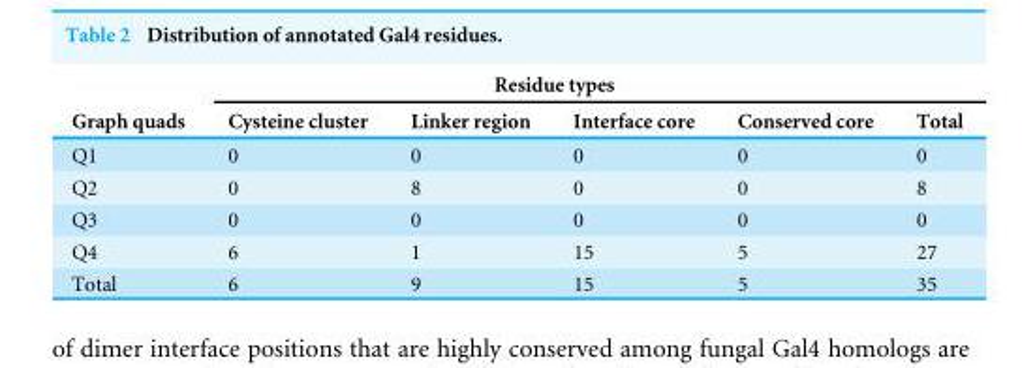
<table><thead><tr><td rowspan="2">Graph quads</td><td colspan="4">Residue types</td><td rowspan="2">Total</td></tr><tr><td>Cysteine cluster</td><td>Linker region</td><td>Interface core</td><td>Conserved core</td></tr></thead><tbody><tr><td>Q1</td><td>0</td><td>0</td><td>0</td><td>0</td><td>0</td></tr><tr><td>Q2</td><td>0</td><td>8</td><td>0</td><td>0</td><td>8</td></tr><tr><td>Q3</td><td>0</td><td>0</td><td>0</td><td>0</td><td>0</td></tr><tr><td>Q4</td><td>6</td><td>1</td><td>15</td><td>5</td><td>27</td></tr><tr><td>Total</td><td>6</td><td>9</td><td>15</td><td>5</td><td>35</td></tr></tbody></table>